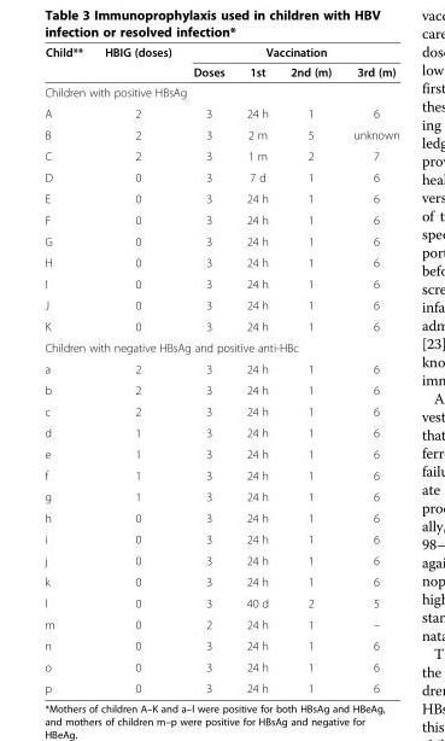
<table><thead><tr><td rowspan="2">Child**</td><td rowspan="2">HBIG (doses)</td><td colspan="4">Vaccination</td></tr><tr><td>Doses</td><td>1st</td><td>2nd (m)</td><td>3rd (m)</td></tr></thead><tbody><tr><td colspan="6">Children with positive HBsAg</td></tr><tr><td>A</td><td>2</td><td>3</td><td>24 h</td><td>1</td><td>6</td></tr><tr><td>B</td><td>2</td><td>3</td><td>2 m</td><td>5</td><td>unknown</td></tr><tr><td>C</td><td>2</td><td>3</td><td>1 m</td><td>2</td><td>7</td></tr><tr><td>D</td><td>0</td><td>3</td><td>7 d</td><td>1</td><td>6</td></tr><tr><td>E</td><td>0</td><td>3</td><td>24 h</td><td>1</td><td>6</td></tr><tr><td>F</td><td>0</td><td>3</td><td>24 h</td><td>1</td><td>6</td></tr><tr><td>G</td><td>0</td><td>3</td><td>24 h</td><td>1</td><td>6</td></tr><tr><td>H</td><td>0</td><td>3</td><td>24 h</td><td>1</td><td>6</td></tr><tr><td>I</td><td>0</td><td>3</td><td>24 h</td><td>1</td><td>6</td></tr><tr><td>J</td><td>0</td><td>3</td><td>24 h</td><td>1</td><td>6</td></tr><tr><td>K</td><td>0</td><td>3</td><td>24 h</td><td>1</td><td>6</td></tr><tr><td colspan="6">Children with negative HBsAg and positive anti-HBc</td></tr><tr><td>a</td><td>2</td><td>3</td><td>24 h</td><td>1</td><td>6</td></tr><tr><td>b</td><td>2</td><td>3</td><td>24 h</td><td>1</td><td>6</td></tr><tr><td>c</td><td>2</td><td>3</td><td>24 h</td><td>1</td><td>6</td></tr><tr><td>d</td><td>1</td><td>3</td><td>24 h</td><td>1</td><td>6</td></tr><tr><td>e</td><td>1</td><td>3</td><td>24 h</td><td>1</td><td>6</td></tr><tr><td>f</td><td>1</td><td>3</td><td>24 h</td><td>1</td><td>6</td></tr><tr><td>g</td><td>1</td><td>3</td><td>24 h</td><td>1</td><td>6</td></tr><tr><td>h</td><td>0</td><td>3</td><td>24 h</td><td>1</td><td>6</td></tr><tr><td>i</td><td>0</td><td>3</td><td>24 h</td><td>1</td><td>6</td></tr><tr><td>j</td><td>0</td><td>3</td><td>24 h</td><td>1</td><td>6</td></tr><tr><td>k</td><td>0</td><td>3</td><td>24 h</td><td>1</td><td>6</td></tr><tr><td>l</td><td>0</td><td>3</td><td>40 d</td><td>2</td><td>5</td></tr><tr><td>m</td><td>0</td><td>2</td><td>24 h</td><td>1</td><td>–</td></tr><tr><td>n</td><td>0</td><td>3</td><td>24 h</td><td>1</td><td>6</td></tr><tr><td>o</td><td>0</td><td>3</td><td>24 h</td><td>1</td><td>6</td></tr><tr><td>p</td><td>0</td><td>3</td><td>24 h</td><td>1</td><td>6</td></tr></tbody></table>